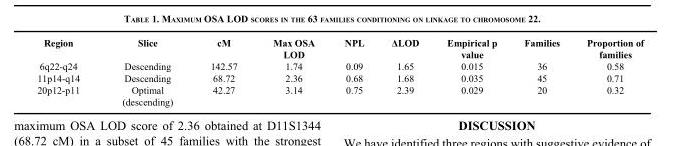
<table><thead><tr><td>Region</td><td>Slice</td><td>cM</td><td>Max OSA LOD</td><td>NPL</td><td>ΔLOD</td><td>Empirical p value</td><td>Families</td><td>Proportion of families</td></tr></thead><tbody><tr><td>6q22-q24</td><td>Descending</td><td>142.57</td><td>1.74</td><td>0.09</td><td>1.65</td><td>0.015</td><td>36</td><td>0.58</td></tr><tr><td>11p14-q14</td><td>Descending</td><td>68.72</td><td>2.36</td><td>0.68</td><td>1.68</td><td>0.035</td><td>45</td><td>0.71</td></tr><tr><td>20p12-p11</td><td>Optimal (descending)</td><td>42.27</td><td>3.14</td><td>0.75</td><td>2.39</td><td>0.029</td><td>20</td><td>0.32</td></tr></tbody></table>